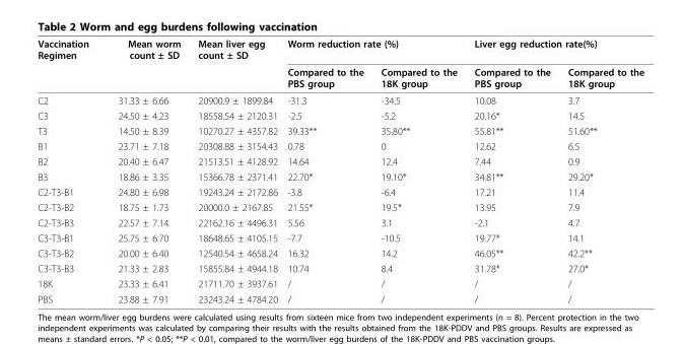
<table><thead><tr><td rowspan="2">Vaccination Regimen</td><td rowspan="2">Mean worm count ± SD</td><td rowspan="2">Mean liver egg count ± SD</td><td colspan="2">Worm reduction rate (%)</td><td colspan="2">Liver egg reduction rate(%)</td></tr><tr><td>Compared to the PBS group</td><td>Compared to the 18K group</td><td>Compared to the PBS group</td><td>Compared to the 18K group</td></tr></thead><tbody><tr><td>C2</td><td>31.33 ± 6.66</td><td>20900.9 ± 1899.84</td><td>-31.3</td><td>-34.5</td><td>10.08</td><td>3.7</td></tr><tr><td>C3</td><td>24.50 ± 4.23</td><td>18558.54 ± 2120.31</td><td>-2.5</td><td>-5.2</td><td>20.16*</td><td>14.5</td></tr><tr><td>T3</td><td>14.50 ± 8.39</td><td>10270.27 ± 4357.82</td><td>39.33**</td><td>35.80**</td><td>55.81**</td><td>51.60**</td></tr><tr><td>B1</td><td>23.71 ± 7.18</td><td>20308.88 ± 3154.43</td><td>0.78</td><td>0</td><td>12.62</td><td>6.5</td></tr><tr><td>B2</td><td>20.40 ± 6.47</td><td>21513.51 ± 4128.92</td><td>14.64</td><td>12.4</td><td>7.44</td><td>0.9</td></tr><tr><td>B3</td><td>18.86 ± 3.35</td><td>15366.78 ± 2371.41</td><td>22.70*</td><td>19.10*</td><td>34.81**</td><td>29.20*</td></tr><tr><td>C2-T3-B1</td><td>24.80 ± 6.98</td><td>19243.24 ± 2172.86</td><td>-3.8</td><td>-6.4</td><td>17.21</td><td>11.4</td></tr><tr><td>C2-T3-B2</td><td>18.75 ± 1.73</td><td>20000.0 ± 2167.85</td><td>21.55*</td><td>19.5*</td><td>13.95</td><td>7.9</td></tr><tr><td>C2-T3-B3</td><td>22.57 ± 7.14</td><td>22162.16 ± 4496.31</td><td>5.56</td><td>3.1</td><td>-2.1</td><td>4.7</td></tr><tr><td>C3-T3-B1</td><td>25.75 ± 6.70</td><td>18648.65 ± 4105.15</td><td>-7.7</td><td>-10.5</td><td>19.77*</td><td>14.1</td></tr><tr><td>C3-T3-B2</td><td>20.00 ± 6.40</td><td>12540.54 ± 4658.24</td><td>16.32</td><td>14.2</td><td>46.05**</td><td>42.2**</td></tr><tr><td>C3-T3-B3</td><td>21.33 ± 2.83</td><td>15855.84 ± 4944.18</td><td>10.74</td><td>8.4</td><td>31.78*</td><td>27.0*</td></tr><tr><td>18K</td><td>23.33 ± 6.41</td><td>21711.70 ± 3937.61</td><td>/</td><td>/</td><td>/</td><td>/</td></tr><tr><td>PBS</td><td>23.88 ± 7.91</td><td>23243.24 ± 4784.20</td><td>/</td><td>/</td><td>/</td><td>/</td></tr></tbody></table>